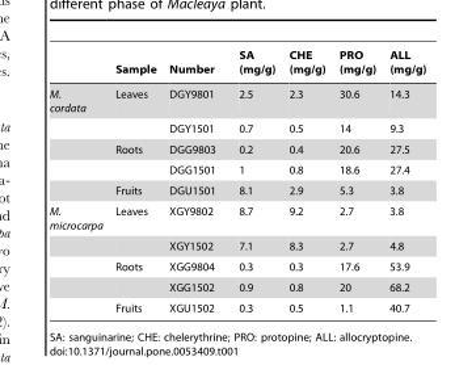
<table><thead><tr><td></td><td>Sample</td><td>Number</td><td>SA (mg/g)</td><td>CHE (mg/g)</td><td>PRO (mg/g)</td><td>ALL (mg/g)</td></tr></thead><tbody><tr><td rowspan="5">M. cordata</td><td>Leaves</td><td>DGY9801</td><td>2.5</td><td>2.3</td><td>30.6</td><td>14.3</td></tr><tr><td></td><td>DGY1501</td><td>0.7</td><td>0.5</td><td>14</td><td>9.3</td></tr><tr><td>Roots</td><td>DGG9803</td><td>0.2</td><td>0.4</td><td>20.6</td><td>27.5</td></tr><tr><td></td><td>DGG1501</td><td>1</td><td>0.8</td><td>18.6</td><td>27.4</td></tr><tr><td>Fruits</td><td>DGU1501</td><td>8.1</td><td>2.9</td><td>5.3</td><td>3.8</td></tr><tr><td rowspan="5">M. microcarpa</td><td>Leaves</td><td>XGY9802</td><td>8.7</td><td>9.2</td><td>2.7</td><td>3.8</td></tr><tr><td></td><td>XGY1502</td><td>7.1</td><td>8.3</td><td>2.7</td><td>4.8</td></tr><tr><td>Roots</td><td>XGG9804</td><td>0.3</td><td>0.3</td><td>17.6</td><td>53.9</td></tr><tr><td></td><td>XGG1502</td><td>0.9</td><td>0.8</td><td>20</td><td>68.2</td></tr><tr><td>Fruits</td><td>XGU1502</td><td>0.3</td><td>0.5</td><td>1.1</td><td>40.7</td></tr></tbody></table>